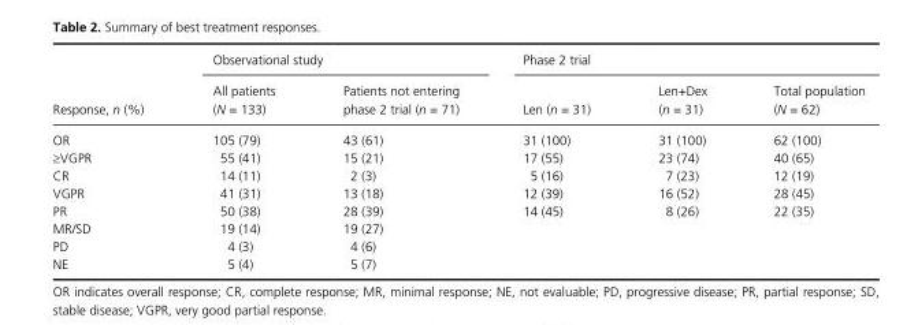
<table><thead><tr><td rowspan="2">Response, n (%)</td><td colspan="2">Observational study</td><td colspan="3">Phase 2 trial</td></tr><tr><td>All patients (N = 133)</td><td>Patients not entering phase 2 trial (n = 71)</td><td>Len (n = 31)</td><td>Len+Dex (n = 31)</td><td>Total population (N = 62)</td></tr></thead><tbody><tr><td>OR</td><td>105 (79)</td><td>43 (61)</td><td>31 (100)</td><td>31 (100)</td><td>62 (100)</td></tr><tr><td>≥VGPR</td><td>55 (41)</td><td>15 (21)</td><td>17 (55)</td><td>23 (74)</td><td>40 (65)</td></tr><tr><td>CR</td><td>14 (11)</td><td>2 (3)</td><td>5 (16)</td><td>7 (23)</td><td>12 (19)</td></tr><tr><td>VGPR</td><td>41 (31)</td><td>13 (18)</td><td>12 (39)</td><td>16 (52)</td><td>28 (45)</td></tr><tr><td>PR</td><td>50 (38)</td><td>28 (39)</td><td>14 (45)</td><td>8 (26)</td><td>22 (35)</td></tr><tr><td>MR/SD</td><td>19 (14)</td><td>19 (27)</td><td></td><td></td><td></td></tr><tr><td>PD</td><td>4 (3)</td><td>4 (6)</td><td></td><td></td><td></td></tr><tr><td>NE</td><td>5 (4)</td><td>5 (7)</td><td></td><td></td><td></td></tr></tbody></table>